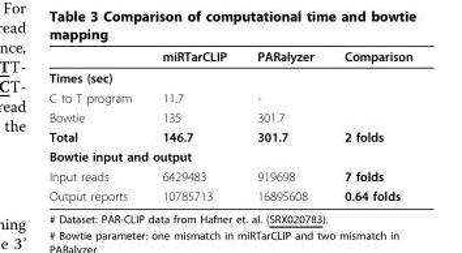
<table><thead><tr><td></td><td>miRTarCLIP</td><td>PARalyzer</td><td>Comparison</td></tr></thead><tbody><tr><td colspan="4">Times (sec)</td></tr><tr><td>C to T program</td><td>11.7</td><td>-</td><td></td></tr><tr><td>Bowtie</td><td>135</td><td>301.7</td><td></td></tr><tr><td>Total</td><td>146.7</td><td>301.7</td><td>2 folds</td></tr><tr><td colspan="4">Bowtie input and output</td></tr><tr><td>Input reads</td><td>6429483</td><td>919698</td><td>7 folds</td></tr><tr><td>Output reports</td><td>10785713</td><td>16895608</td><td>0.64 folds</td></tr></tbody></table>